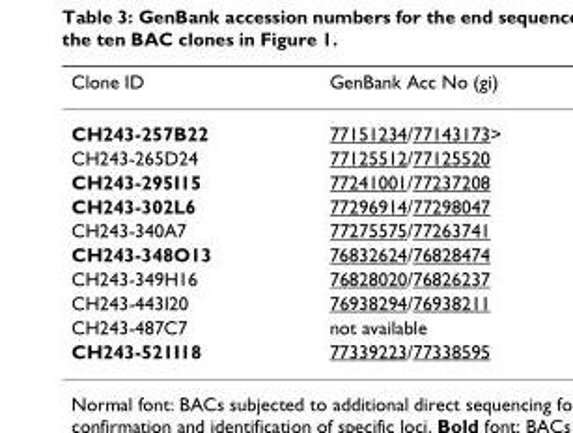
<table><thead><tr><td>Clone ID</td><td>GenBank Acc No (gi)</td></tr></thead><tbody><tr><td>CH243-257B22</td><td>77151234/77143173&gt;</td></tr><tr><td>CH243-265D24</td><td>77125512/77125520</td></tr><tr><td>CH243-295I15</td><td>77241001/77237208</td></tr><tr><td>CH243-302L6</td><td>77296914/77298047</td></tr><tr><td>CH243-340A7</td><td>77275575/77263741</td></tr><tr><td>CH243-348O13</td><td>76832624/76828474</td></tr><tr><td>CH243-349H16</td><td>76828020/76826237</td></tr><tr><td>CH243-443I20</td><td>76938294/76938211</td></tr><tr><td>CH243-487C7</td><td>not available</td></tr><tr><td>CH243-521I18</td><td>77339223/77338595</td></tr></tbody></table>